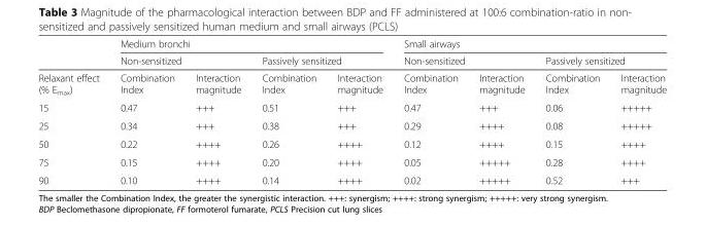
<table><thead><tr><td rowspan="3">Relaxant effect (% E<sub>max</sub>)</td><td colspan="4">Medium bronchi</td><td colspan="4">Small airways</td></tr><tr><td colspan="2">Non-sensitized</td><td colspan="2">Passively sensitized</td><td colspan="2">Non-sensitized</td><td colspan="2">Passively sensitized</td></tr><tr><td>Combination Index</td><td>Interaction magnitude</td><td>Combination Index</td><td>Interaction magnitude</td><td>Combination Index</td><td>Interaction magnitude</td><td>Combination Index</td><td>Interaction magnitude</td></tr></thead><tbody><tr><td>15</td><td>0.47</td><td>+++</td><td>0.51</td><td>+++</td><td>0.47</td><td>+++</td><td>0.06</td><td>+++++</td></tr><tr><td>25</td><td>0.34</td><td>+++</td><td>0.38</td><td>+++</td><td>0.29</td><td>++++</td><td>0.08</td><td>+++++</td></tr><tr><td>50</td><td>0.22</td><td>++++</td><td>0.26</td><td>++++</td><td>0.12</td><td>++++</td><td>0.15</td><td>++++</td></tr><tr><td>75</td><td>0.15</td><td>++++</td><td>0.20</td><td>++++</td><td>0.05</td><td>+++++</td><td>0.28</td><td>++++</td></tr><tr><td>90</td><td>0.10</td><td>++++</td><td>0.14</td><td>++++</td><td>0.02</td><td>+++++</td><td>0.52</td><td>+++</td></tr></tbody></table>